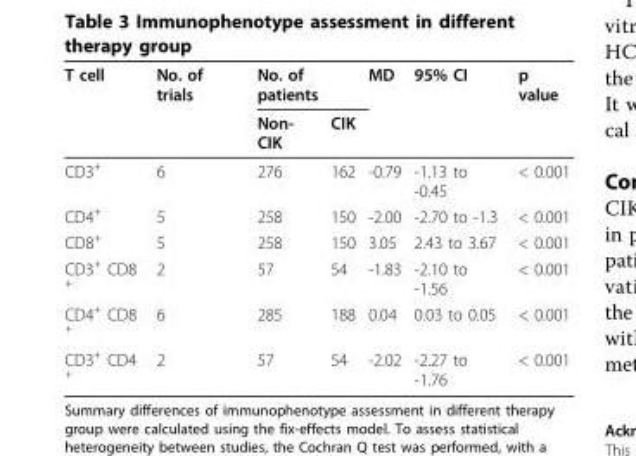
<table><thead><tr><td rowspan="2">T cell</td><td rowspan="2">No. of trials</td><td colspan="2">No. of patients</td><td rowspan="2">MD</td><td rowspan="2">95% CI</td><td rowspan="2">p value</td></tr><tr><td>Non- CIK</td><td>CIK</td></tr></thead><tbody><tr><td>CD3<sup>+</sup></td><td>6</td><td>276</td><td>162</td><td>-0.79</td><td>-1.13 to -0.45</td><td>&lt; 0.001</td></tr><tr><td>CD4<sup>+</sup></td><td>5</td><td>258</td><td>150</td><td>-2.00</td><td>-2.70 to -1.3</td><td>&lt; 0.001</td></tr><tr><td>CD8<sup>+</sup></td><td>5</td><td>258</td><td>150</td><td>3.05</td><td>2.43 to 3.67</td><td>&lt; 0.001</td></tr><tr><td>CD3<sup>+</sup> CD8 <sup>+</sup></td><td>2</td><td>57</td><td>54</td><td>-1.83</td><td>-2.10 to -1.56</td><td>&lt; 0.001</td></tr><tr><td>CD4<sup>+</sup> CD8 <sup>+</sup></td><td>6</td><td>285</td><td>188</td><td>0.04</td><td>0.03 to 0.05</td><td>&lt; 0.001</td></tr><tr><td>CD3<sup>+</sup> CD4 <sup>+</sup></td><td>2</td><td>57</td><td>54</td><td>-2.02</td><td>-2.27 to -1.76</td><td>&lt; 0.001</td></tr></tbody></table>